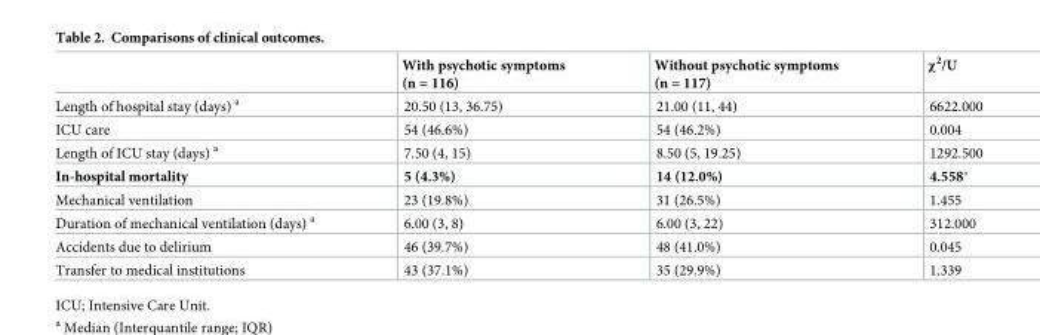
<table><thead><tr><td></td><td>With psychotic symptoms (n = 116)</td><td>Without psychotic symptoms (n = 117)</td><td>χ<sup>2</sup>/U</td></tr></thead><tbody><tr><td>Length of hospital stay (days) <sup>a</sup></td><td>20.50 (13, 36.75)</td><td>21.00 (11, 44)</td><td>6622.000</td></tr><tr><td>ICU care</td><td>54 (46.6%)</td><td>54 (46.2%)</td><td>0.004</td></tr><tr><td>Length of ICU stay (days) <sup>a</sup></td><td>7.50 (4, 15)</td><td>8.50 (5, 19.25)</td><td>1292.500</td></tr><tr><td>In-hospital mortality</td><td>5 (4.3%)</td><td>14 (12.0%)</td><td>4.558*</td></tr><tr><td>Mechanical ventilation</td><td>23 (19.8%)</td><td>31 (26.5%)</td><td>1.455</td></tr><tr><td>Duration of mechanical ventilation (days) <sup>a</sup></td><td>6.00 (3, 8)</td><td>6.00 (3, 22)</td><td>312.000</td></tr><tr><td>Accidents due to delirium</td><td>46 (39.7%)</td><td>48 (41.0%)</td><td>0.045</td></tr><tr><td>Transfer to medical institutions</td><td>43 (37.1%)</td><td>35 (29.9%)</td><td>1.339</td></tr></tbody></table>